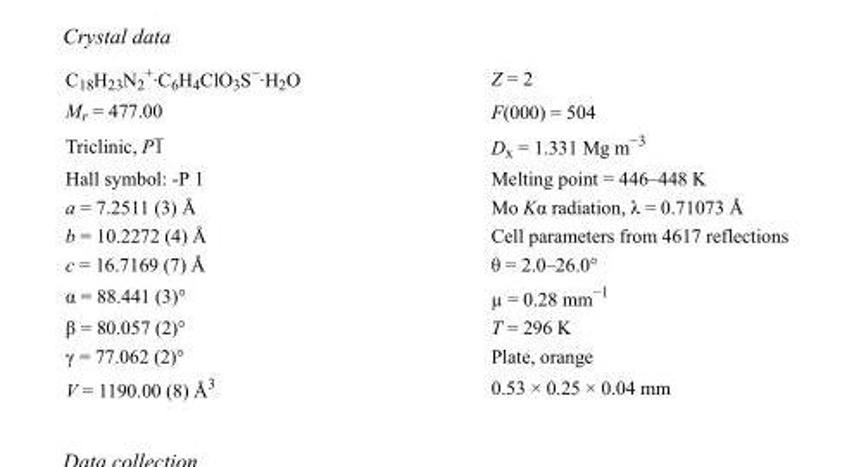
<table><tbody><tr><td>C<sub>18</sub>H<sub>23</sub>N<sub>2</sub> <sup>+</sup>·C<sub>6</sub>H<sub>4</sub>ClO<sub>3</sub>S<sup>−</sup>·H<sub>2</sub>O</td><td>Z = 2</td></tr><tr><td>M<sub>r</sub> = 477.00</td><td>F(000) = 504</td></tr><tr><td>Triclinic, P1</td><td>D<sub>x</sub> = 1.331 Mg m<sup>−3</sup></td></tr><tr><td>Hall symbol: -P 1</td><td>Melting point = 446–448 K</td></tr><tr><td>a = 7.2511 (3) Å</td><td>Mo Kα radiation, λ = 0.71073 Å</td></tr><tr><td>b = 10.2272 (4) Å</td><td>Cell parameters from 4617 reflections</td></tr><tr><td>c = 16.7169 (7) Å</td><td>θ = 2.0–26.0°</td></tr><tr><td>α = 88.441 (3)°</td><td>µ = 0.28 mm<sup>−1</sup></td></tr><tr><td>β = 80.057 (2)°</td><td>T = 296 K</td></tr><tr><td>γ = 77.062 (2)°</td><td>Plate, orange</td></tr><tr><td>V = 1190.00 (8) Å<sup>3</sup></td><td>0.53 × 0.25 × 0.04 mm</td></tr></tbody></table>